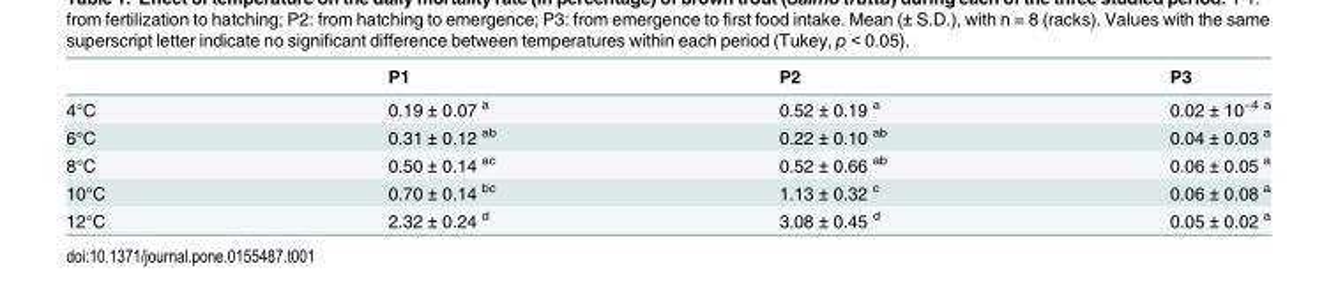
<table><thead><tr><td></td><td>P1</td><td>P2</td><td>P3</td></tr></thead><tbody><tr><td>4°C</td><td>0.19 ± 0.07 <sup>a</sup></td><td>0.52 ± 0.19 <sup>a</sup></td><td>0.02 ± 10<sup>−4 a</sup></td></tr><tr><td>6°C</td><td>0.31 ± 0.12 <sup>ab</sup></td><td>0.22 ± 0.10 <sup>ab</sup></td><td>0.04 ± 0.03 <sup>a</sup></td></tr><tr><td>8°C</td><td>0.50 ± 0.14 <sup>ac</sup></td><td>0.52 ± 0.66 <sup>ab</sup></td><td>0.06 ± 0.05 <sup>a</sup></td></tr><tr><td>10°C</td><td>0.70 ± 0.14 <sup>bc</sup></td><td>1.13 ± 0.32 <sup>c</sup></td><td>0.06 ± 0.08 <sup>a</sup></td></tr><tr><td>12°C</td><td>2.32 ± 0.24 <sup>d</sup></td><td>3.08 ± 0.45 <sup>d</sup></td><td>0.05 ± 0.02 <sup>a</sup></td></tr></tbody></table>